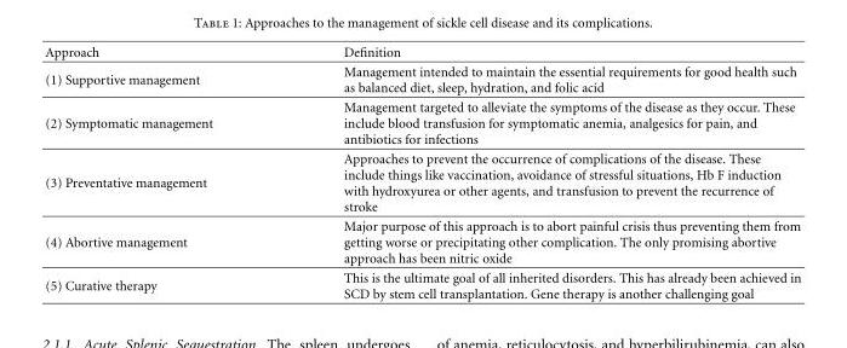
<table><thead><tr><td>Approach</td><td>Definition</td></tr></thead><tbody><tr><td>(1) Supportive management</td><td>Management intended to maintain the essential requirements for good health such as balanced diet, sleep, hydration, and folic acid</td></tr><tr><td>(2) Symptomatic management</td><td>Management targeted to alleviate the symptoms of the disease as they occur. These include blood transfusion for symptomatic anemia, analgesics for pain, and antibiotics for infections</td></tr><tr><td>(3) Preventative management</td><td>Approaches to prevent the occurrence of complications of the disease. These include things like vaccination, avoidance of stressful situations, Hb F induction with hydroxyurea or other agents, and transfusion to prevent the recurrence of stroke</td></tr><tr><td>(4) Abortive management</td><td>Major purpose of this approach is to abort painful crisis thus preventing them from getting worse or precipitating other complication. The only promising abortive approach has been nitric oxide</td></tr><tr><td>(5) Curative therapy</td><td>This is the ultimate goal of all inherited disorders. This has already been achieved in SCD by stem cell transplantation. Gene therapy is another challenging goal</td></tr></tbody></table>